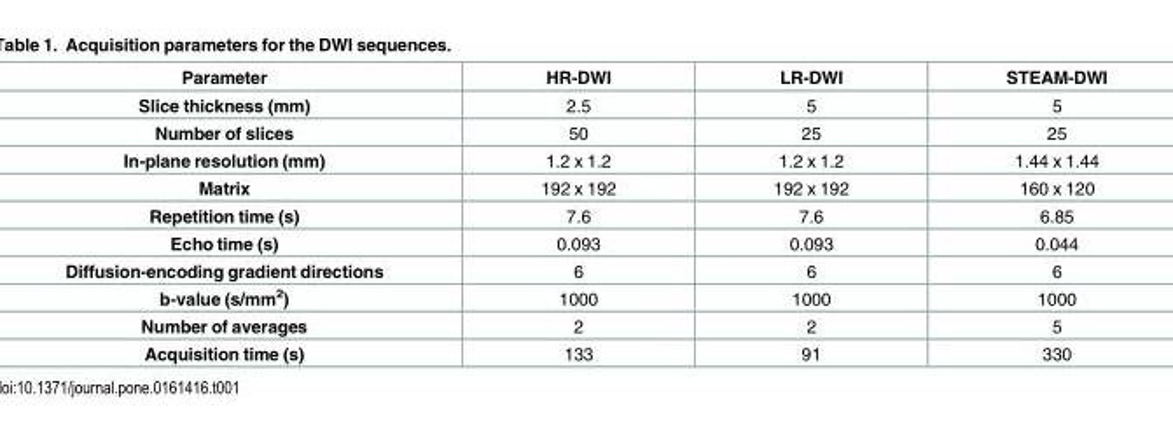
<table><thead><tr><td>Parameter</td><td>HR-DWI</td><td>LR-DWI</td><td>STEAM-DWI</td></tr></thead><tbody><tr><td>Slice thickness (mm)</td><td>2.5</td><td>5</td><td>5</td></tr><tr><td>Number of slices</td><td>50</td><td>25</td><td>25</td></tr><tr><td>In-plane resolution (mm)</td><td>1.2 x 1.2</td><td>1.2 x 1.2</td><td>1.44 x 1.44</td></tr><tr><td>Matrix</td><td>192 x 192</td><td>192 x 192</td><td>160 x 120</td></tr><tr><td>Repetition time (s)</td><td>7.6</td><td>7.6</td><td>6.85</td></tr><tr><td>Echo time (s)</td><td>0.093</td><td>0.093</td><td>0.044</td></tr><tr><td>Diffusion-encoding gradient directions</td><td>6</td><td>6</td><td>6</td></tr><tr><td>b-value (s/mm<sup>2</sup>)</td><td>1000</td><td>1000</td><td>1000</td></tr><tr><td>Number of averages</td><td>2</td><td>2</td><td>5</td></tr><tr><td>Acquisition time (s)</td><td>133</td><td>91</td><td>330</td></tr></tbody></table>